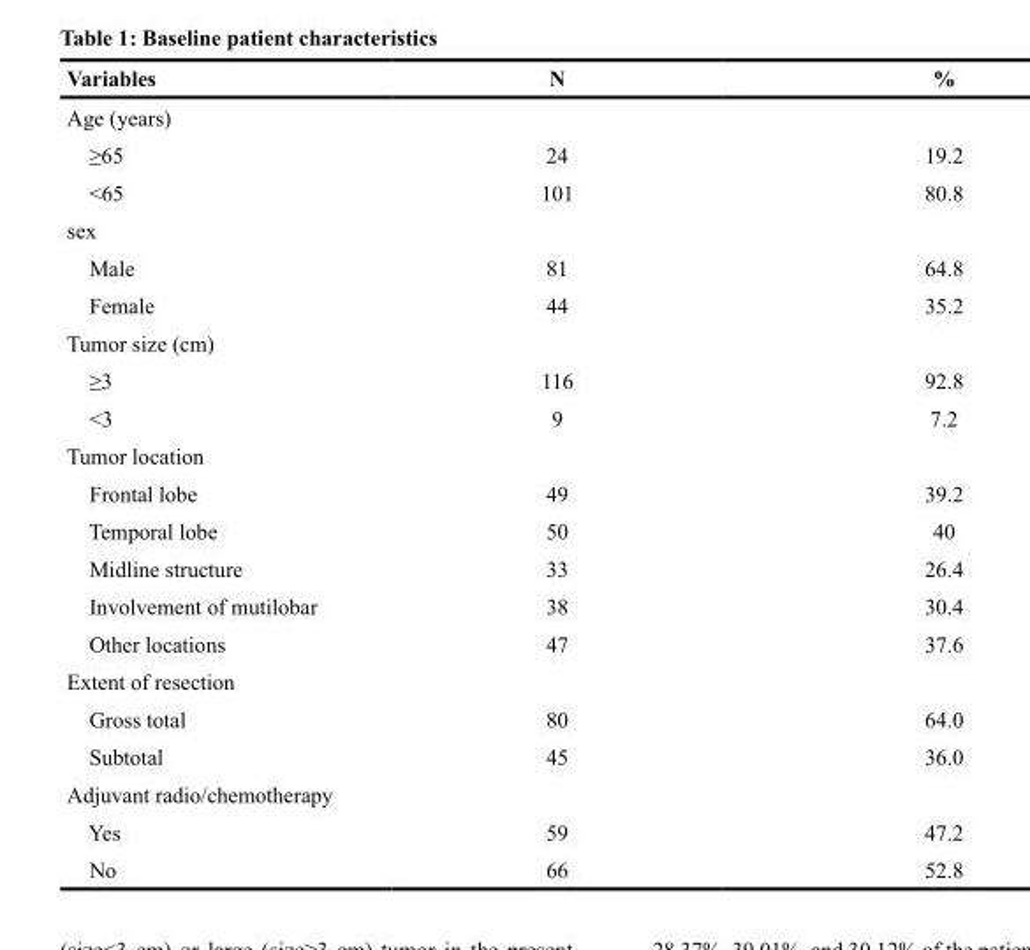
<table><thead><tr><td>Variables</td><td>N</td><td>%</td></tr></thead><tbody><tr><td colspan="3">Age (years)</td></tr><tr><td>≥65</td><td>24</td><td>19.2</td></tr><tr><td>&lt;65</td><td>101</td><td>80.8</td></tr><tr><td colspan="3">sex</td></tr><tr><td>Male</td><td>81</td><td>64.8</td></tr><tr><td>Female</td><td>44</td><td>35.2</td></tr><tr><td colspan="3">Tumor size (cm)</td></tr><tr><td>≥3</td><td>116</td><td>92.8</td></tr><tr><td>&lt;3</td><td>9</td><td>7.2</td></tr><tr><td colspan="3">Tumor location</td></tr><tr><td>Frontal lobe</td><td>49</td><td>39.2</td></tr><tr><td>Temporal lobe</td><td>50</td><td>40</td></tr><tr><td>Midline structure</td><td>33</td><td>26.4</td></tr><tr><td>Involvement of mutilobar</td><td>38</td><td>30.4</td></tr><tr><td>Other locations</td><td>47</td><td>37.6</td></tr><tr><td colspan="3">Extent of resection</td></tr><tr><td>Gross total</td><td>80</td><td>64.0</td></tr><tr><td>Subtotal</td><td>45</td><td>36.0</td></tr><tr><td colspan="3">Adjuvant radio/chemotherapy</td></tr><tr><td>Yes</td><td>59</td><td>47.2</td></tr><tr><td>No</td><td>66</td><td>52.8</td></tr></tbody></table>